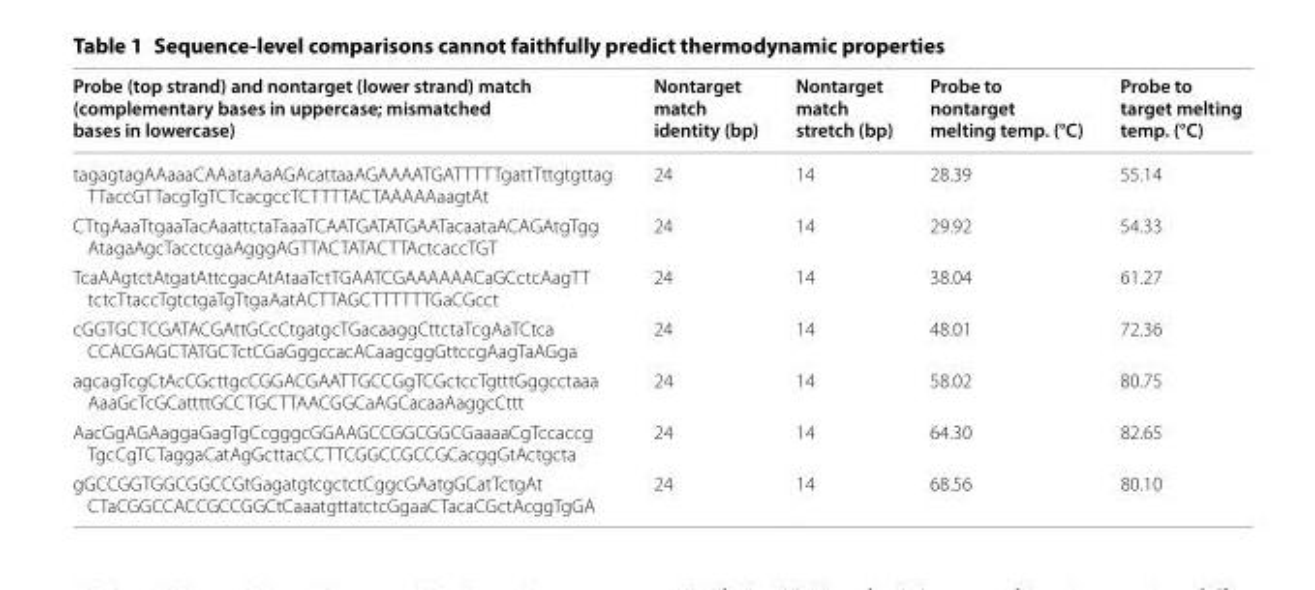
<table><thead><tr><td>Probe (top strand) and nontarget (lower strand) match (complementary bases in uppercase; mismatched bases in lowercase)</td><td>Nontarget match identity (bp)</td><td>Nontarget match stretch (bp)</td><td>Probe to nontarget melting temp. (°C)</td><td>Probe to target melting temp. (°C)</td></tr></thead><tbody><tr><td>tagagtagAAaaaCAAataAaAGAcattaaAGAAAATGATTTTTgattTttgtgttag TTaccGTTacgTgTCTcacgccTCTTTTACTAAAAAaagtAt</td><td>24</td><td>14</td><td>28.39</td><td>55.14</td></tr><tr><td>CTtgAaaTtgaaTacAaattctaTaaaTCAATGATATGAATacaataACAGAtgTgg AtagaAgcTacctcgaAgggAGTTACTATACTTActcaccTGT</td><td>24</td><td>14</td><td>29.92</td><td>54.33</td></tr><tr><td>TcaAAgtctAtgatAttcgacAtAtaaTctTGAATCGAAAAAACaGCctcAagTT tctcTtaccTgtctgaTgTtgaAatACTTAGCTTTTTTGaCGcct</td><td>24</td><td>14</td><td>38.04</td><td>61.27</td></tr><tr><td>cGGTGCTCGATACGAttGCcCtgatgcTGacaaggCttctaTcgAaTCtca CCACGAGCTATGCTctCGaGggccacACaagcggGttccgAagTaAGga</td><td>24</td><td>14</td><td>48.01</td><td>72.36</td></tr><tr><td>agcagTcgCtAcCGcttgcCGGACGAATTGCCGgTCGctccTgtttGggcctaaa AaaGcTcGCattttGCCTGCTTAACGGCaAGCacaaAaggcCttt</td><td>24</td><td>14</td><td>58.02</td><td>80.75</td></tr><tr><td>AacGgAGAaggaGagTgCcgggcGGAAGCCGGCGGCGaaaaCgTccaccg TgcCgTCTaggaCatAgGcttacCCTTCGGCCGCCGCacggGtActgcta</td><td>24</td><td>14</td><td>64.30</td><td>82.65</td></tr><tr><td>gGCCGGTGGCGGCCGtGagatgtcgctctCggcGAatgGCatTctgAt CTaCGGCCACCGCCGGCtCaaatgttatctcGgaaCTacaCGctAcggTgGA</td><td>24</td><td>14</td><td>68.56</td><td>80.10</td></tr></tbody></table>